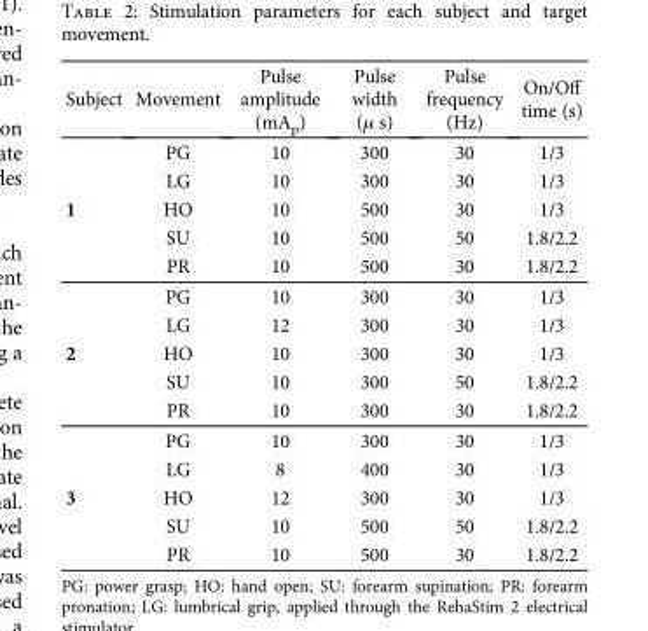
<table><thead><tr><td>Subject</td><td>Movement</td><td>Pulse amplitude (mA<sub>p</sub>)</td><td>Pulse width (μ s)</td><td>Pulse frequency (Hz)</td><td>On/Off time (s)</td></tr></thead><tbody><tr><td rowspan="5">1</td><td>PG</td><td>10</td><td>300</td><td>30</td><td>1/3</td></tr><tr><td>LG</td><td>10</td><td>300</td><td>30</td><td>1/3</td></tr><tr><td>HO</td><td>10</td><td>500</td><td>30</td><td>1/3</td></tr><tr><td>SU</td><td>10</td><td>500</td><td>50</td><td>1.8/2.2</td></tr><tr><td>PR</td><td>10</td><td>500</td><td>30</td><td>1.8/2.2</td></tr><tr><td rowspan="5">2</td><td>PG</td><td>10</td><td>300</td><td>30</td><td>1/3</td></tr><tr><td>LG</td><td>12</td><td>300</td><td>30</td><td>1/3</td></tr><tr><td>HO</td><td>10</td><td>300</td><td>30</td><td>1/3</td></tr><tr><td>SU</td><td>10</td><td>300</td><td>50</td><td>1.8/2.2</td></tr><tr><td>PR</td><td>10</td><td>300</td><td>30</td><td>1.8/2.2</td></tr><tr><td rowspan="5">3</td><td>PG</td><td>10</td><td>300</td><td>30</td><td>1/3</td></tr><tr><td>LG</td><td>8</td><td>400</td><td>30</td><td>1/3</td></tr><tr><td>HO</td><td>12</td><td>300</td><td>30</td><td>1/3</td></tr><tr><td>SU</td><td>10</td><td>500</td><td>50</td><td>1.8/2.2</td></tr><tr><td>PR</td><td>10</td><td>500</td><td>30</td><td>1.8/2.2</td></tr></tbody></table>